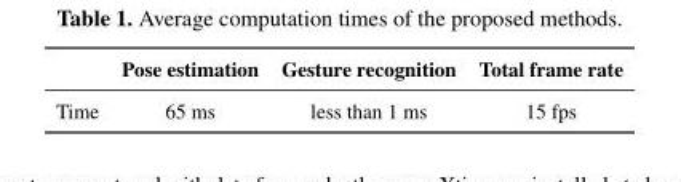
<table><thead><tr><td></td><td>Pose estimation</td><td>Gesture recognition</td><td>Total frame rate</td></tr></thead><tbody><tr><td>Time</td><td>65 ms</td><td>less than 1 ms</td><td>15 fps</td></tr></tbody></table>